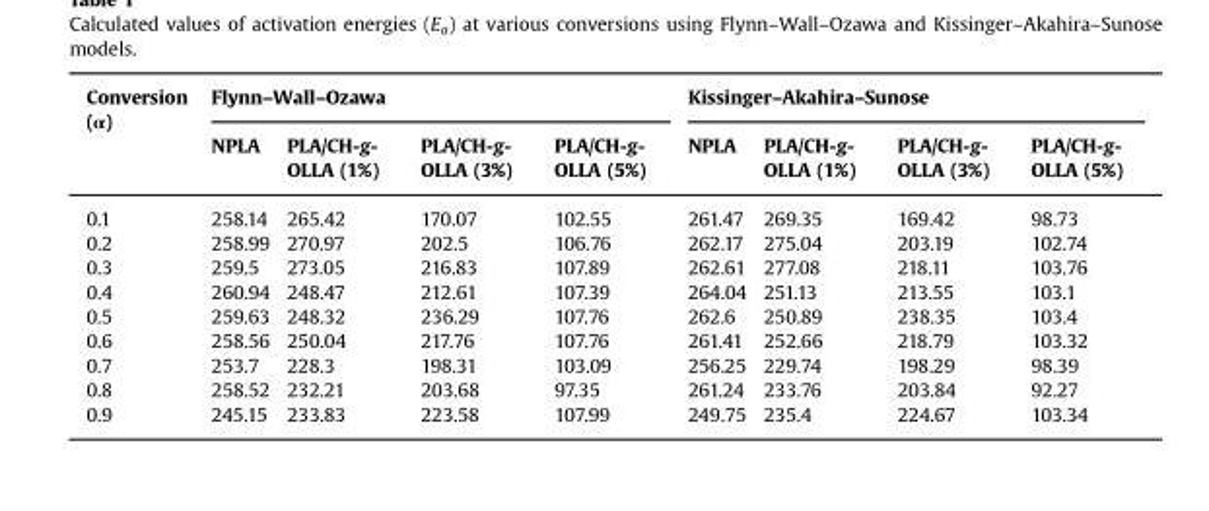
<table><thead><tr><td rowspan="2">Conversion (α)</td><td colspan="4">Flynn–Wall–Ozawa</td><td colspan="4">Kissinger–Akahira–Sunose</td></tr><tr><td>NPLA</td><td>PLA/CH-g- OLLA (1%)</td><td>PLA/CH-g- OLLA (3%)</td><td>PLA/CH-g- OLLA (5%)</td><td>NPLA</td><td>PLA/CH-g- OLLA (1%)</td><td>PLA/CH-g- OLLA (3%)</td><td>PLA/CH-g- OLLA (5%)</td></tr></thead><tbody><tr><td>0.1</td><td>258.14</td><td>265.42</td><td>170.07</td><td>102.55</td><td>261.47</td><td>269.35</td><td>169.42</td><td>98.73</td></tr><tr><td>0.2</td><td>258.99</td><td>270.97</td><td>202.5</td><td>106.76</td><td>262.17</td><td>275.04</td><td>203.19</td><td>102.74</td></tr><tr><td>0.3</td><td>259.5</td><td>273.05</td><td>216.83</td><td>107.89</td><td>262.61</td><td>277.08</td><td>218.11</td><td>103.76</td></tr><tr><td>0.4</td><td>260.94</td><td>248.47</td><td>212.61</td><td>107.39</td><td>264.04</td><td>251.13</td><td>213.55</td><td>103.1</td></tr><tr><td>0.5</td><td>259.63</td><td>248.32</td><td>236.29</td><td>107.76</td><td>262.6</td><td>250.89</td><td>238.35</td><td>103.4</td></tr><tr><td>0.6</td><td>258.56</td><td>250.04</td><td>217.76</td><td>107.76</td><td>261.41</td><td>252.66</td><td>218.79</td><td>103.32</td></tr><tr><td>0.7</td><td>253.7</td><td>228.3</td><td>198.31</td><td>103.09</td><td>256.25</td><td>229.74</td><td>198.29</td><td>98.39</td></tr><tr><td>0.8</td><td>258.52</td><td>232.21</td><td>203.68</td><td>97.35</td><td>261.24</td><td>233.76</td><td>203.84</td><td>92.27</td></tr><tr><td>0.9</td><td>245.15</td><td>233.83</td><td>223.58</td><td>107.99</td><td>249.75</td><td>235.4</td><td>224.67</td><td>103.34</td></tr></tbody></table>